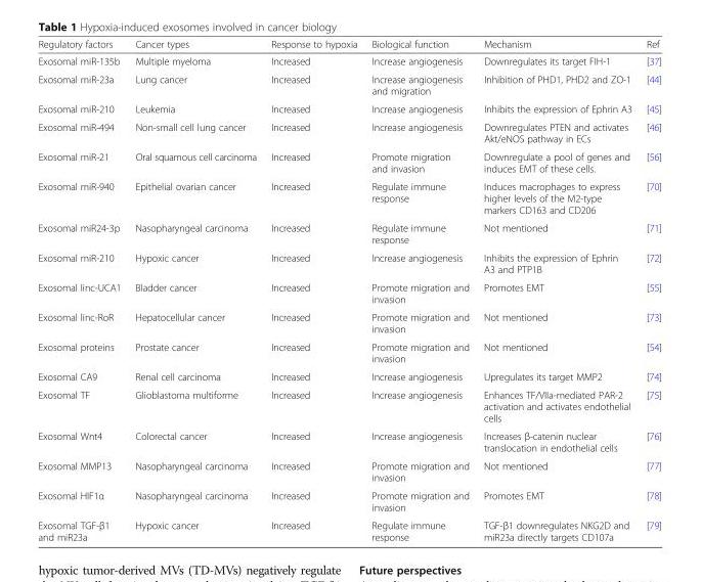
<table><thead><tr><td>Regulatory factors</td><td>Cancer types</td><td>Response to hypoxia</td><td>Biological function</td><td>Mechanism</td><td>Ref</td></tr></thead><tbody><tr><td>Exosomal miR-135b</td><td>Multiple myeloma</td><td>Increased</td><td>Increase angiogenesis</td><td>Downregulates its target FIH-1</td><td>[37]</td></tr><tr><td>Exosomal miR-23a</td><td>Lung cancer</td><td>Increased</td><td>Increase angiogenesis and migration</td><td>Inhibition of PHD1, PHD2 and ZO-1</td><td>[44]</td></tr><tr><td>Exosomal miR-210</td><td>Leukemia</td><td>Increased</td><td>Increase angiogenesis</td><td>Inhibits the expression of Ephrin A3</td><td>[45]</td></tr><tr><td>Exosomal miR-494</td><td>Non-small cell lung cancer</td><td>Increased</td><td>Increase angiogenesis</td><td>Downregulates PTEN and activates Akt/eNOS pathway in ECs</td><td>[46]</td></tr><tr><td>Exosomal miR-21</td><td>Oral squamous cell carcinoma</td><td>Increased</td><td>Promote migration and invasion</td><td>Downregulate a pool of genes and induces EMT of these cells.</td><td>[56]</td></tr><tr><td>Exosomal miR-940</td><td>Epithelial ovarian cancer</td><td>Increased</td><td>Regulate immune response</td><td>Induces macrophages to express higher levels of the M2-type markers CD163 and CD206</td><td>[70]</td></tr><tr><td>Exosomal miR24-3p</td><td>Nasopharyngeal carcinoma</td><td>Increased</td><td>Regulate immune response</td><td>Not mentioned</td><td>[71]</td></tr><tr><td>Exosomal miR-210</td><td>Hypoxic cancer</td><td>Increased</td><td>Increase angiogenesis</td><td>Inhibits the expression of Ephrin A3 and PTP1B</td><td>[72]</td></tr><tr><td>Exosomal linc-UCA1</td><td>Bladder cancer</td><td>Increased</td><td>Promote migration and invasion</td><td>Promotes EMT</td><td>[55]</td></tr><tr><td>Exosomal linc-RoR</td><td>Hepatocellular cancer</td><td>Increased</td><td>Promote migration and invasion</td><td>Not mentioned</td><td>[73]</td></tr><tr><td>Exosomal proteins</td><td>Prostate cancer</td><td>Increased</td><td>Promote migration and invasion</td><td>Not mentioned</td><td>[54]</td></tr><tr><td>Exosomal CA9</td><td>Renal cell carcinoma</td><td>Increased</td><td>Increase angiogenesis</td><td>Upregulates its target MMP2</td><td>[74]</td></tr><tr><td>Exosomal TF</td><td>Glioblastoma multiforme</td><td>Increased</td><td>Increase angiogenesis</td><td>Enhances TF/VIIa-mediated PAR-2 activation and activates endothelial cells</td><td>[75]</td></tr><tr><td>Exosomal Wnt4</td><td>Colorectal cancer</td><td>Increased</td><td>Increase angiogenesis</td><td>Increases β-catenin nuclear translocation in endothelial cells</td><td>[76]</td></tr><tr><td>Exosomal MMP13</td><td>Nasopharyngeal carcinoma</td><td>Increased</td><td>Promote migration and invasion</td><td>Not mentioned</td><td>[77]</td></tr><tr><td>Exosomal HIF1α</td><td>Nasopharyngeal carcinoma</td><td>Increased</td><td>Promote migration and invasion</td><td>Promotes EMT</td><td>[78]</td></tr><tr><td>Exosomal TGF-β1 and miR23a</td><td>Hypoxic cancer</td><td>Increased</td><td>Regulate immune response</td><td>TGF-β1 downregulates NKG2D and miR23a directly targets CD107a</td><td>[79]</td></tr></tbody></table>